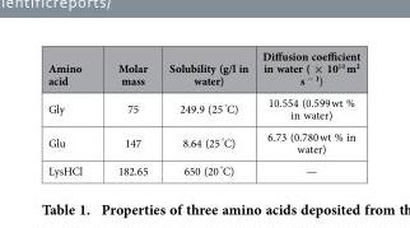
<table><thead><tr><td>Amino acid</td><td>Molar mass</td><td>Solubility (g/l in water)</td><td>Diffusion coefficient in water ( × 10<sup>10</sup> m<sup>2</sup> s <sup>− 1</sup>)</td></tr></thead><tbody><tr><td>Gly</td><td>75</td><td>249.9 (25 <sup>°</sup>C)</td><td>10.554 (0.599 wt % in water)</td></tr><tr><td>Glu</td><td>147</td><td>8.64 (25 <sup>°</sup>C)</td><td>6.73 (0.780 wt % in water)</td></tr><tr><td>LysHCl</td><td>182.65</td><td>650 (20 <sup>°</sup>C)</td><td>—</td></tr></tbody></table>